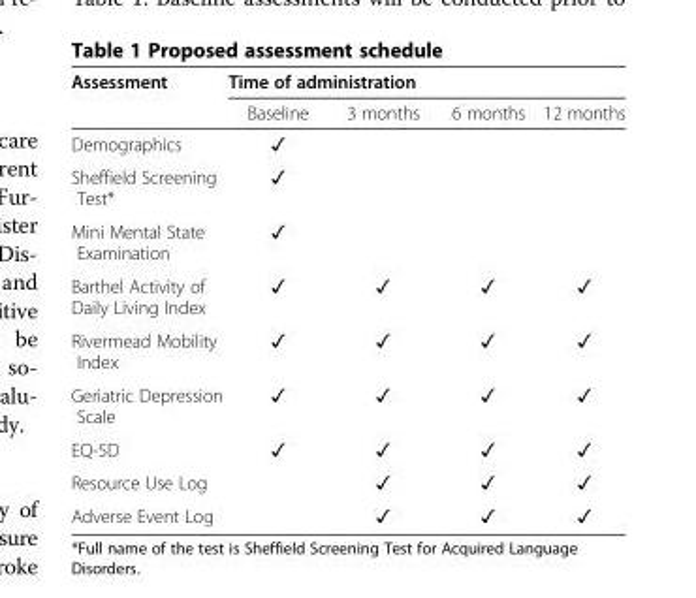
<table><thead><tr><td rowspan="2">Assessment</td><td colspan="4">Time of administration</td></tr><tr><td>Baseline</td><td>3 months</td><td>6 months</td><td>12 months</td></tr></thead><tbody><tr><td>Demographics</td><td>✓</td><td></td><td></td><td></td></tr><tr><td>Sheffield Screening Test*</td><td>✓</td><td></td><td></td><td></td></tr><tr><td>Mini Mental State Examination</td><td>✓</td><td></td><td></td><td></td></tr><tr><td>Barthel Activity of Daily Living Index</td><td>✓</td><td>✓</td><td>✓</td><td>✓</td></tr><tr><td>Rivermead Mobility Index</td><td>✓</td><td>✓</td><td>✓</td><td>✓</td></tr><tr><td>Geriatric Depression Scale</td><td>✓</td><td>✓</td><td>✓</td><td>✓</td></tr><tr><td>EQ-5D</td><td>✓</td><td>✓</td><td>✓</td><td>✓</td></tr><tr><td>Resource Use Log</td><td></td><td>✓</td><td>✓</td><td>✓</td></tr><tr><td>Adverse Event Log</td><td></td><td>✓</td><td>✓</td><td>✓</td></tr></tbody></table>